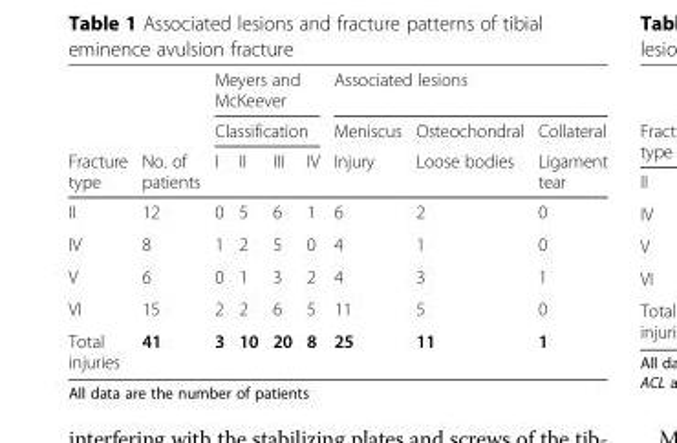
<table><thead><tr><td rowspan="3">Fracture type</td><td rowspan="3">No. of patients</td><td rowspan="2" colspan="4">Meyers and McKeever Classification</td><td colspan="3">Associated lesions</td></tr><tr><td rowspan="2">Meniscus Injury</td><td rowspan="2">Osteochondral Loose bodies</td><td rowspan="2">Collateral Ligament tear</td></tr><tr><td>I</td><td>II</td><td>III</td><td>IV</td></tr></thead><tbody><tr><td>II</td><td>12</td><td>0</td><td>5</td><td>6</td><td>1</td><td>6</td><td>2</td><td>0</td></tr><tr><td>IV</td><td>8</td><td>1</td><td>2</td><td>5</td><td>0</td><td>4</td><td>1</td><td>0</td></tr><tr><td>V</td><td>6</td><td>0</td><td>1</td><td>3</td><td>2</td><td>4</td><td>3</td><td>1</td></tr><tr><td>VI</td><td>15</td><td>2</td><td>2</td><td>6</td><td>5</td><td>11</td><td>5</td><td>0</td></tr><tr><td>Total injuries</td><td>41</td><td>3</td><td>10</td><td>20</td><td>8</td><td>25</td><td>11</td><td>1</td></tr></tbody></table>